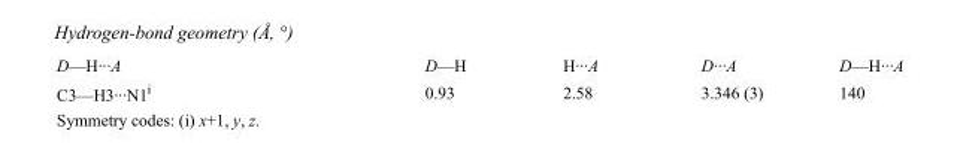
<table><tbody><tr><td>D—H···A</td><td>D—H</td><td>H···A</td><td>D···A</td><td>D—H···A</td></tr><tr><td>C3—H3···N1<sup>i</sup></td><td>0.93</td><td>2.58</td><td>3.346 (3)</td><td>140</td></tr></tbody></table>